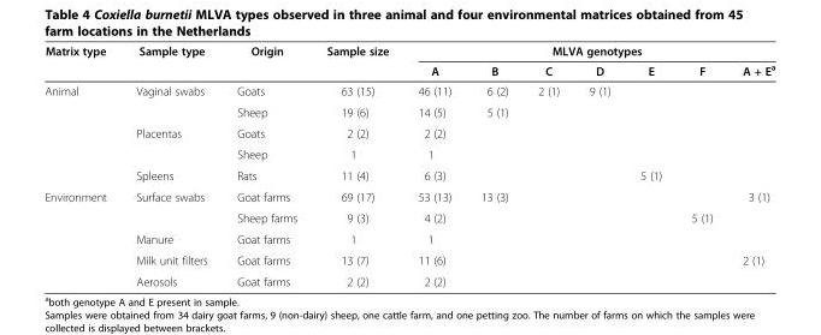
<table><thead><tr><td rowspan="2">Matrix type</td><td rowspan="2">Sample type</td><td rowspan="2">Origin</td><td rowspan="2">Sample size</td><td colspan="7">MLVA genotypes</td></tr><tr><td>A</td><td>B</td><td>C</td><td>D</td><td>E</td><td>F</td><td>A + E<sup>a</sup></td></tr></thead><tbody><tr><td rowspan="5">Animal</td><td>Vaginal swabs</td><td>Goats</td><td>63 (15)</td><td>46 (11)</td><td>6 (2)</td><td>2 (1)</td><td>9 (1)</td><td></td><td></td><td></td></tr><tr><td></td><td>Sheep</td><td>19 (6)</td><td>14 (5)</td><td>5 (1)</td><td></td><td></td><td></td><td></td><td></td></tr><tr><td>Placentas</td><td>Goats</td><td>2 (2)</td><td>2 (2)</td><td></td><td></td><td></td><td></td><td></td><td></td></tr><tr><td></td><td>Sheep</td><td>1</td><td>1</td><td></td><td></td><td></td><td></td><td></td><td></td></tr><tr><td>Spleens</td><td>Rats</td><td>11 (4)</td><td>6 (3)</td><td></td><td></td><td></td><td>5 (1)</td><td></td><td></td></tr><tr><td rowspan="5">Environment</td><td>Surface swabs</td><td>Goat farms</td><td>69 (17)</td><td>53 (13)</td><td>13 (3)</td><td></td><td></td><td></td><td></td><td>3 (1)</td></tr><tr><td></td><td>Sheep farms</td><td>9 (3)</td><td>4 (2)</td><td></td><td></td><td></td><td></td><td>5 (1)</td><td></td></tr><tr><td>Manure</td><td>Goat farms</td><td>1</td><td>1</td><td></td><td></td><td></td><td></td><td></td><td></td></tr><tr><td>Milk unit filters</td><td>Goat farms</td><td>13 (7)</td><td>11 (6)</td><td></td><td></td><td></td><td></td><td></td><td>2 (1)</td></tr><tr><td>Aerosols</td><td>Goat farms</td><td>2 (2)</td><td>2 (2)</td><td></td><td></td><td></td><td></td><td></td><td></td></tr></tbody></table>